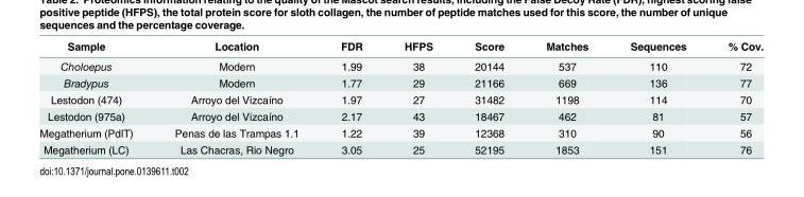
<table><thead><tr><td>Sample</td><td>Location</td><td>FDR</td><td>HFPS</td><td>Score</td><td>Matches</td><td>Sequences</td><td>% Cov.</td></tr></thead><tbody><tr><td>Choloepus</td><td>Modern</td><td>1.99</td><td>38</td><td>20144</td><td>537</td><td>110</td><td>72</td></tr><tr><td>Bradypus</td><td>Modern</td><td>1.77</td><td>29</td><td>21166</td><td>669</td><td>136</td><td>77</td></tr><tr><td>Lestodon (474)</td><td>Arroyo del Vizcaíno</td><td>1.97</td><td>27</td><td>31482</td><td>1198</td><td>114</td><td>70</td></tr><tr><td>Lestodon (975a)</td><td>Arroyo del Vizcaíno</td><td>2.17</td><td>43</td><td>18467</td><td>462</td><td>81</td><td>57</td></tr><tr><td>Megatherium (PdlT)</td><td>Penas de las Trampas 1.1</td><td>1.22</td><td>39</td><td>12368</td><td>310</td><td>90</td><td>56</td></tr><tr><td>Megatherium (LC)</td><td>Las Chacras, Rio Negro</td><td>3.05</td><td>25</td><td>52195</td><td>1853</td><td>151</td><td>76</td></tr></tbody></table>